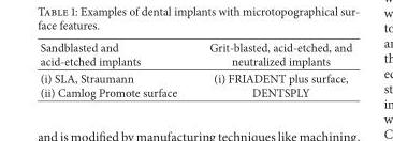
<table><thead><tr><td>Sandblasted and acid-etched implants</td><td>Grit-blasted, acid-etched, and neutralized implants</td></tr></thead><tbody><tr><td>(i) SLA, Straumann (ii) Camlog Promote surface</td><td>(i) FRIADENT plus surface, DENTSPLY</td></tr></tbody></table>